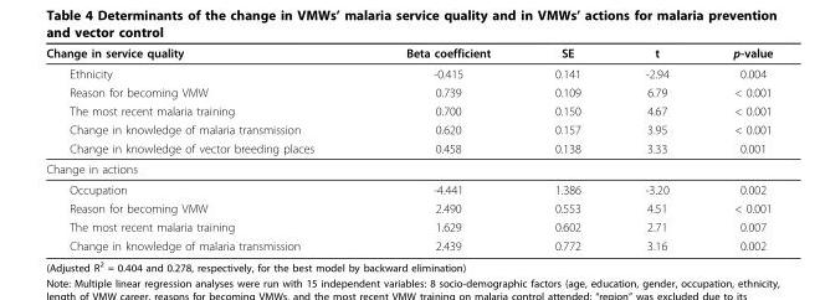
<table><thead><tr><td>Change in service quality</td><td>Beta coefficient</td><td>SE</td><td>t</td><td>p-value</td></tr></thead><tbody><tr><td>Ethnicity</td><td>-0.415</td><td>0.141</td><td>-2.94</td><td>0.004</td></tr><tr><td>Reason for becoming VMW</td><td>0.739</td><td>0.109</td><td>6.79</td><td>&lt; 0.001</td></tr><tr><td>The most recent malaria training</td><td>0.700</td><td>0.150</td><td>4.67</td><td>&lt; 0.001</td></tr><tr><td>Change in knowledge of malaria transmission</td><td>0.620</td><td>0.157</td><td>3.95</td><td>&lt; 0.001</td></tr><tr><td>Change in knowledge of vector breeding places</td><td>0.458</td><td>0.138</td><td>3.33</td><td>0.001</td></tr><tr><td colspan="5">Change in actions</td></tr><tr><td>Occupation</td><td>-4.441</td><td>1.386</td><td>-3.20</td><td>0.002</td></tr><tr><td>Reason for becoming VMW</td><td>2.490</td><td>0.553</td><td>4.51</td><td>&lt; 0.001</td></tr><tr><td>The most recent malaria training</td><td>1.629</td><td>0.602</td><td>2.71</td><td>0.007</td></tr><tr><td>Change in knowledge of malaria transmission</td><td>2.439</td><td>0.772</td><td>3.16</td><td>0.002</td></tr></tbody></table>